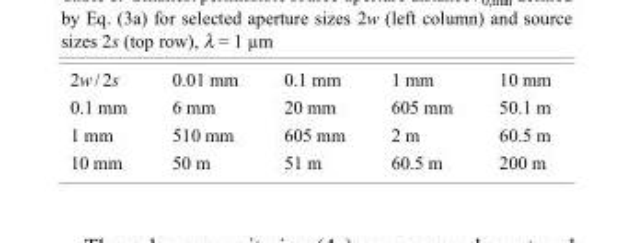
<table><tbody><tr><td>2w/2s</td><td>0.01 mm</td><td>0.1 mm</td><td>1 mm</td><td>10 mm</td></tr><tr><td>0.1 mm</td><td>6 mm</td><td>20 mm</td><td>605 mm</td><td>50.1 m</td></tr><tr><td>1 mm</td><td>510 mm</td><td>605 mm</td><td>2 m</td><td>60.5 m</td></tr><tr><td>10 mm</td><td>50 m</td><td>51 m</td><td>60.5 m</td><td>200 m</td></tr></tbody></table>